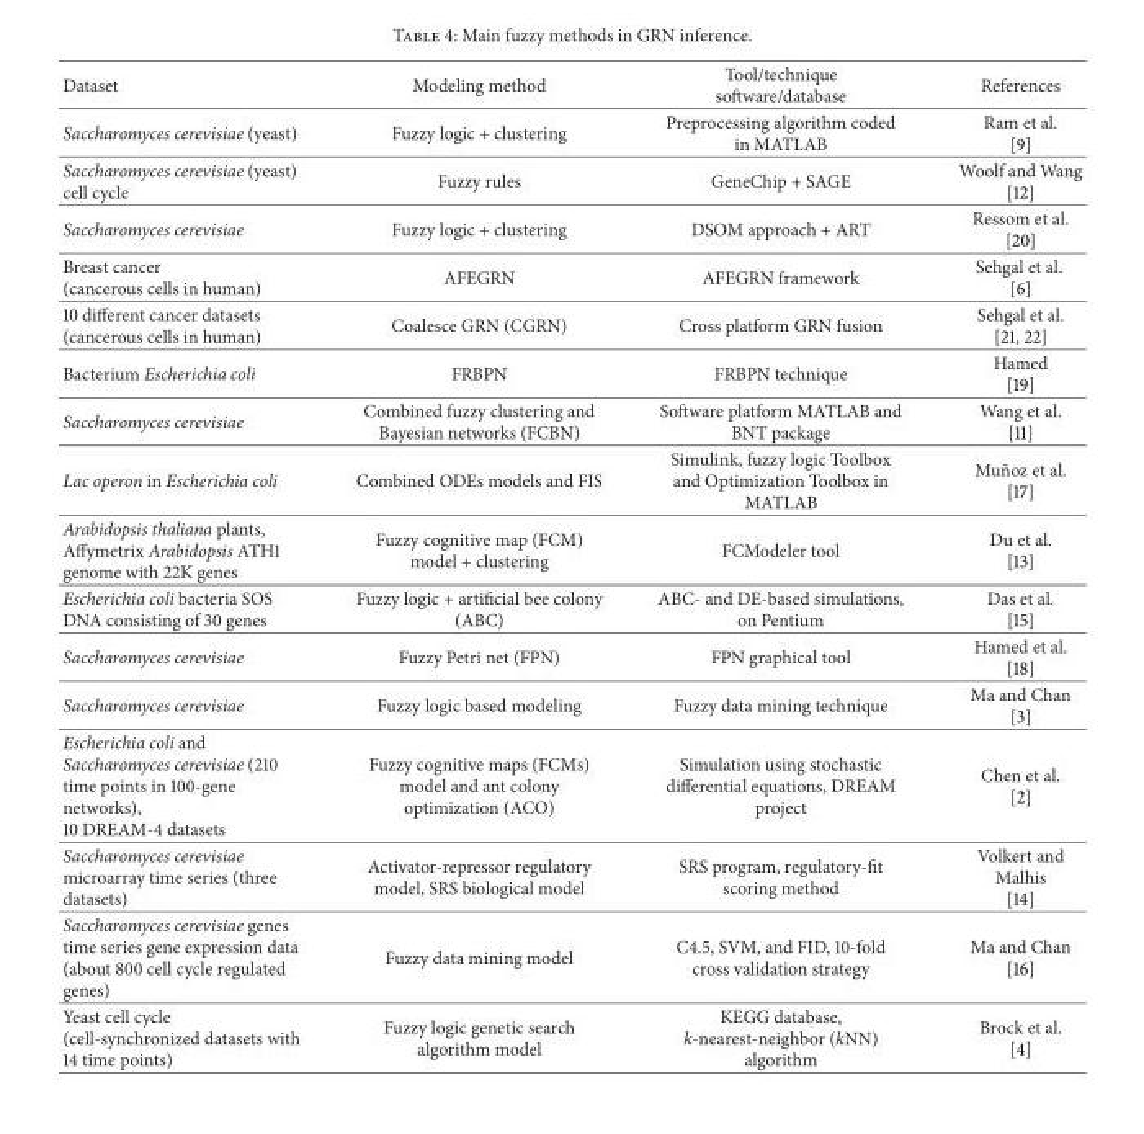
<table><thead><tr><td>Dataset</td><td>Modeling method</td><td>Tool/technique software/database</td><td>References</td></tr></thead><tbody><tr><td>Saccharomyces cerevisiae (yeast)</td><td>Fuzzy logic + clustering</td><td>Preprocessing algorithm coded in MATLAB</td><td>Ram et al. [9]</td></tr><tr><td>Saccharomyces cerevisiae (yeast) cell cycle</td><td>Fuzzy rules</td><td>GeneChip + SAGE</td><td>Woolf and Wang [12]</td></tr><tr><td>Saccharomyces cerevisiae</td><td>Fuzzy logic + clustering</td><td>DSOM approach + ART</td><td>Ressom et al. [20]</td></tr><tr><td>Breast cancer (cancerous cells in human)</td><td>AFEGRN</td><td>AFEGRN framework</td><td>Sehgal et al. [6]</td></tr><tr><td>10 different cancer datasets (cancerous cells in human)</td><td>Coalesce GRN (CGRN)</td><td>Cross platform GRN fusion</td><td>Sehgal et al. [21, 22]</td></tr><tr><td>Bacterium Escherichia coli</td><td>FRBPN</td><td>FRBPN technique</td><td>Hamed [19]</td></tr><tr><td>Saccharomyces cerevisiae</td><td>Combined fuzzy clustering and Bayesian networks (FCBN)</td><td>Software platform MATLAB and BNT package</td><td>Wang et al. [11]</td></tr><tr><td>Lac operon in Escherichia coli</td><td>Combined ODEs models and FIS</td><td>Simulink, fuzzy logic Toolbox and Optimization Toolbox in MATLAB</td><td>Mu˜noz et al. [17]</td></tr><tr><td>Arabidopsis thaliana plants, Affymetrix Arabidopsis ATH1 genome with 22K genes</td><td>Fuzzy cognitive map (FCM) model + clustering</td><td>FCModeler tool</td><td>Du et al. [13]</td></tr><tr><td>Escherichia coli bacteria SOS DNA consisting of 30 genes</td><td>Fuzzy logic + artificial bee colony (ABC)</td><td>ABC- and DE-based simulations, on Pentium</td><td>Das et al. [15]</td></tr><tr><td>Saccharomyces cerevisiae</td><td>Fuzzy Petri net (FPN)</td><td>FPN graphical tool</td><td>Hamed et al. [18]</td></tr><tr><td>Saccharomyces cerevisiae</td><td>Fuzzy logic based modeling</td><td>Fuzzy data mining technique</td><td>Ma and Chan [3]</td></tr><tr><td>Escherichia coli and Saccharomyces cerevisiae (210 time points in 100-gene networks), 10 DREAM-4 datasets</td><td>Fuzzy cognitive maps (FCMs) model and ant colony optimization (ACO)</td><td>Simulation using stochastic differential equations, DREAM project</td><td>Chen et al. [2]</td></tr><tr><td>Saccharomyces cerevisiae microarray time series (three datasets)</td><td>Activator-repressor regulatory model, SRS biological model</td><td>SRS program, regulatory-fit scoring method</td><td>Volkert and Malhis [14]</td></tr><tr><td>Saccharomyces cerevisiae genes time series gene expression data (about 800 cell cycle regulated genes)</td><td>Fuzzy data mining model</td><td>C4.5, SVM, and FID, 10-fold cross validation strategy</td><td>Ma and Chan [16]</td></tr><tr><td>Yeast cell cycle (cell-synchronized datasets with 14 time points)</td><td>Fuzzy logic genetic search algorithm model</td><td>KEGG database, k-nearest-neighbor (kNN) algorithm</td><td>Brock et al. [4]</td></tr></tbody></table>